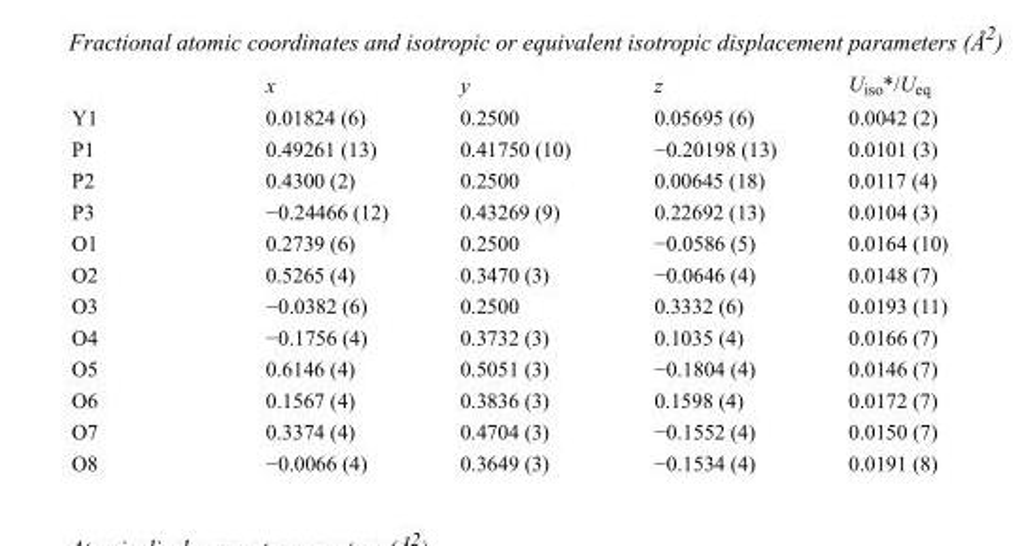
<table><thead><tr><td></td><td>x</td><td>y</td><td>z</td><td>U<sub>iso</sub>*/U<sub>eq</sub></td></tr></thead><tbody><tr><td>Y1</td><td>0.01824 (6)</td><td>0.2500</td><td>0.05695 (6)</td><td>0.0042 (2)</td></tr><tr><td>P1</td><td>0.49261 (13)</td><td>0.41750 (10)</td><td>−0.20198 (13)</td><td>0.0101 (3)</td></tr><tr><td>P2</td><td>0.4300 (2)</td><td>0.2500</td><td>0.00645 (18)</td><td>0.0117 (4)</td></tr><tr><td>P3</td><td>−0.24466 (12)</td><td>0.43269 (9)</td><td>0.22692 (13)</td><td>0.0104 (3)</td></tr><tr><td>O1</td><td>0.2739 (6)</td><td>0.2500</td><td>−0.0586 (5)</td><td>0.0164 (10)</td></tr><tr><td>O2</td><td>0.5265 (4)</td><td>0.3470 (3)</td><td>−0.0646 (4)</td><td>0.0148 (7)</td></tr><tr><td>O3</td><td>−0.0382 (6)</td><td>0.2500</td><td>0.3332 (6)</td><td>0.0193 (11)</td></tr><tr><td>O4</td><td>−0.1756 (4)</td><td>0.3732 (3)</td><td>0.1035 (4)</td><td>0.0166 (7)</td></tr><tr><td>O5</td><td>0.6146 (4)</td><td>0.5051 (3)</td><td>−0.1804 (4)</td><td>0.0146 (7)</td></tr><tr><td>O6</td><td>0.1567 (4)</td><td>0.3836 (3)</td><td>0.1598 (4)</td><td>0.0172 (7)</td></tr><tr><td>O7</td><td>0.3374 (4)</td><td>0.4704 (3)</td><td>−0.1552 (4)</td><td>0.0150 (7)</td></tr><tr><td>O8</td><td>−0.0066 (4)</td><td>0.3649 (3)</td><td>−0.1534 (4)</td><td>0.0191 (8)</td></tr></tbody></table>